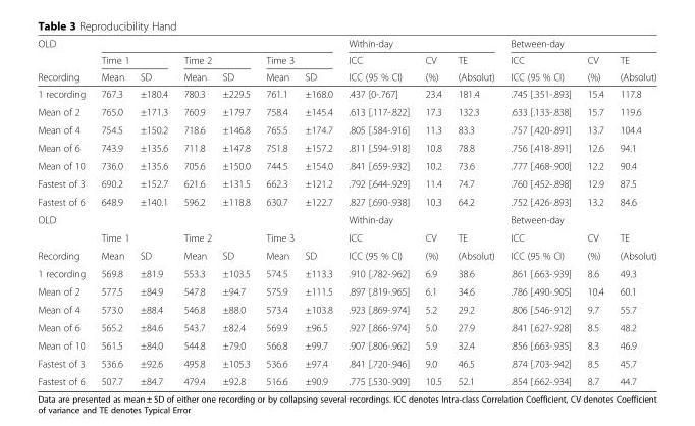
<table><thead><tr><td rowspan="3">OLD Recording</td><td></td><td></td><td></td><td></td><td></td><td></td><td colspan="3">Within-day</td><td colspan="3">Between-day</td></tr><tr><td colspan="2">Time 1</td><td colspan="2">Time 2</td><td colspan="2">Time 3</td><td rowspan="2">ICC ICC (95 % CI)</td><td rowspan="2">CV (%)</td><td rowspan="2">TE (Absolut)</td><td rowspan="2">ICC ICC (95 % CI)</td><td rowspan="2">CV (%)</td><td rowspan="2">TE (Absolut)</td></tr><tr><td>Mean</td><td>SD</td><td>Mean</td><td>SD</td><td>Mean</td><td>SD</td></tr></thead><tbody><tr><td>1 recording</td><td>767.3</td><td>±180.4</td><td>780.3</td><td>±229.5</td><td>761.1</td><td>±168.0</td><td>.437 [0-.767]</td><td>23.4</td><td>181.4</td><td>.745 [.351-.893]</td><td>15.4</td><td>117.8</td></tr><tr><td>Mean of 2</td><td>765.0</td><td>±171.3</td><td>760.9</td><td>±179.7</td><td>758.4</td><td>±145.4</td><td>.613 [.117-.822]</td><td>17.3</td><td>132.3</td><td>.633 [.133-.838]</td><td>15.7</td><td>119.6</td></tr><tr><td>Mean of 4</td><td>754.5</td><td>±150.2</td><td>718.6</td><td>±146.8</td><td>765.5</td><td>±174.7</td><td>.805 [.584-.916]</td><td>11.3</td><td>83.3</td><td>.757 [.420-.891]</td><td>13.7</td><td>104.4</td></tr><tr><td>Mean of 6</td><td>743.9</td><td>±135.6</td><td>711.8</td><td>±147.8</td><td>751.8</td><td>±157.2</td><td>.811 [.594-.918]</td><td>10.8</td><td>78.8</td><td>.756 [.418-.891]</td><td>12.6</td><td>94.1</td></tr><tr><td>Mean of 10</td><td>736.0</td><td>±135.6</td><td>705.6</td><td>±150.0</td><td>744.5</td><td>±154.0</td><td>.841 [.659-.932]</td><td>10.2</td><td>73.6</td><td>.777 [.468-.900]</td><td>12.2</td><td>90.4</td></tr><tr><td>Fastest of 3</td><td>690.2</td><td>±152.7</td><td>621.6</td><td>±131.5</td><td>662.3</td><td>±121.2</td><td>.792 [.644-.929]</td><td>11.4</td><td>74.7</td><td>.760 [.452-.898]</td><td>12.9</td><td>87.5</td></tr><tr><td>Fastest of 6</td><td>648.9</td><td>±140.1</td><td>596.2</td><td>±118.8</td><td>630.7</td><td>±122.7</td><td>.827 [.690-.938]</td><td>10.3</td><td>64.2</td><td>.752 [.426-.893]</td><td>13.2</td><td>84.6</td></tr><tr><td rowspan="2">OLD</td><td colspan="6"></td><td colspan="3">Within-day</td><td colspan="3">Between-day</td></tr><tr><td colspan="2">Time 1</td><td colspan="2">Time 2</td><td colspan="2">Time 3</td><td>ICC</td><td>CV</td><td>TE</td><td>ICC</td><td>CV</td><td>TE</td></tr><tr><td>Recording</td><td>Mean</td><td>SD</td><td>Mean</td><td>SD</td><td>Mean</td><td>SD</td><td>ICC (95 % CI)</td><td>(%)</td><td>(Absolut)</td><td>ICC (95 % CI)</td><td>(%)</td><td>(Absolut)</td></tr><tr><td>1 recording</td><td>569.8</td><td>±81.9</td><td>553.3</td><td>±103.5</td><td>574.5</td><td>±113.3</td><td>.910 [.782-.962]</td><td>6.9</td><td>38.6</td><td>.861 [.663-.939]</td><td>8.6</td><td>49.3</td></tr><tr><td>Mean of 2</td><td>577.5</td><td>±84.9</td><td>547.8</td><td>±94.7</td><td>575.9</td><td>±111.5</td><td>.897 [.819-.965]</td><td>6.1</td><td>34.6</td><td>.786 [.490-.905]</td><td>10.4</td><td>60.1</td></tr><tr><td>Mean of 4</td><td>573.0</td><td>±88.4</td><td>546.8</td><td>±88.0</td><td>573.4</td><td>±103.8</td><td>.923 [.869-.974]</td><td>5.2</td><td>29.2</td><td>.806 [.546-.912]</td><td>9.7</td><td>55.7</td></tr><tr><td>Mean of 6</td><td>565.2</td><td>±84.6</td><td>543.7</td><td>±82.4</td><td>569.9</td><td>±96.5</td><td>.927 [.866-.974]</td><td>5.0</td><td>27.9</td><td>.841 [.627-.928]</td><td>8.5</td><td>48.2</td></tr><tr><td>Mean of 10</td><td>561.5</td><td>±84.0</td><td>544.8</td><td>±79.0</td><td>566.8</td><td>±99.7</td><td>.907 [.806-.962]</td><td>5.9</td><td>32.4</td><td>.856 [.663-.935]</td><td>8.3</td><td>46.9</td></tr><tr><td>Fastest of 3</td><td>536.6</td><td>±92.6</td><td>495.8</td><td>±105.3</td><td>536.6</td><td>±97.4</td><td>.841 [.720-.946]</td><td>9.0</td><td>46.5</td><td>.874 [.703-.942]</td><td>8.5</td><td>45.7</td></tr><tr><td>Fastest of 6</td><td>507.7</td><td>±84.7</td><td>479.4</td><td>±92.8</td><td>516.6</td><td>±90.9</td><td>.775 [.530-.909]</td><td>10.5</td><td>52.1</td><td>.854 [.662-.934]</td><td>8.7</td><td>44.7</td></tr></tbody></table>